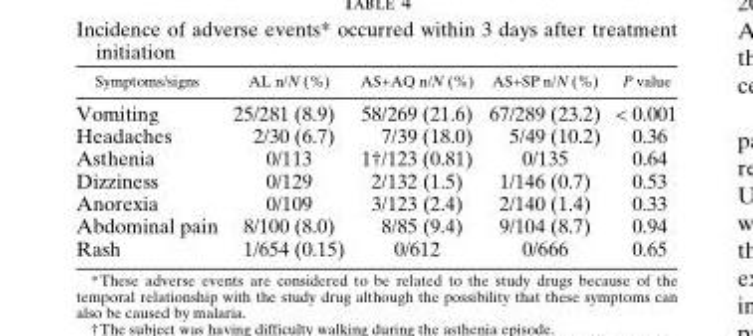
<table><thead><tr><td>Symptoms/signs</td><td>AL n/N (%)</td><td>AS+AQ n/N (%)</td><td>AS+SP n/N (%)</td><td>P value</td></tr></thead><tbody><tr><td>Vomiting</td><td>25/281 (8.9)</td><td>58/269 (21.6)</td><td>67/289 (23.2)</td><td>&lt; 0.001</td></tr><tr><td>Headaches</td><td>2/30 (6.7)</td><td>7/39 (18.0)</td><td>5/49 (10.2)</td><td>0.36</td></tr><tr><td>Asthenia</td><td>0/113</td><td>1†/123 (0.81)</td><td>0/135</td><td>0.64</td></tr><tr><td>Dizziness</td><td>0/129</td><td>2/132 (1.5)</td><td>1/146 (0.7)</td><td>0.53</td></tr><tr><td>Anorexia</td><td>0/109</td><td>3/123 (2.4)</td><td>2/140 (1.4)</td><td>0.33</td></tr><tr><td>Abdominal pain</td><td>8/100 (8.0)</td><td>8/85 (9.4)</td><td>9/104 (8.7)</td><td>0.94</td></tr><tr><td>Rash</td><td>1/654 (0.15)</td><td>0/612</td><td>0/666</td><td>0.65</td></tr></tbody></table>